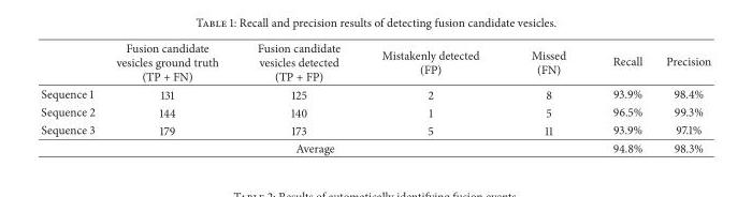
<table><thead><tr><td></td><td>Fusion candidate vesicles ground truth (TP + FN)</td><td>Fusion candidate vesicles detected (TP + FP)</td><td>Mistakenly detected (FP)</td><td>Missed (FN)</td><td>Recall</td><td>Precision</td></tr></thead><tbody><tr><td>Sequence 1</td><td>131</td><td>125</td><td>2</td><td>8</td><td>93.9%</td><td>98.4%</td></tr><tr><td>Sequence 2</td><td>144</td><td>140</td><td>1</td><td>5</td><td>96.5%</td><td>99.3%</td></tr><tr><td>Sequence 3</td><td>179</td><td>173</td><td>5</td><td>11</td><td>93.9%</td><td>97.1%</td></tr><tr><td colspan="5">Average</td><td>94.8%</td><td>98.3%</td></tr></tbody></table>